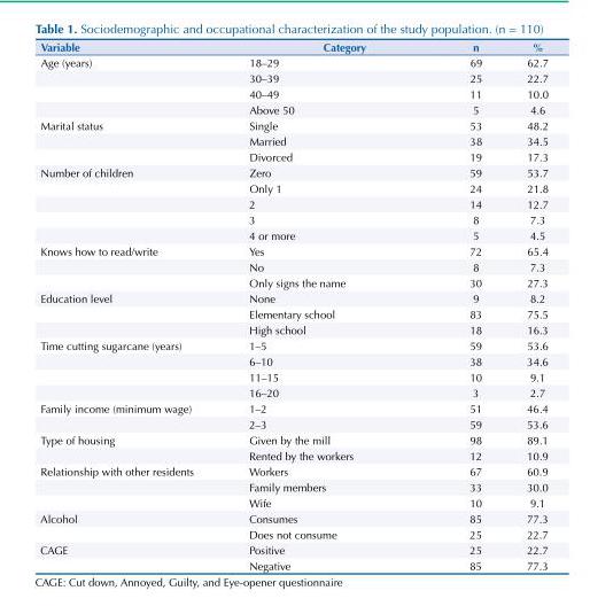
<table><thead><tr><td>Variable</td><td>Category</td><td>n</td><td>%</td></tr></thead><tbody><tr><td rowspan="4">Age (years)</td><td>18–29</td><td>69</td><td>62.7</td></tr><tr><td>30–39</td><td>25</td><td>22.7</td></tr><tr><td>40–49</td><td>11</td><td>10.0</td></tr><tr><td>Above 50</td><td>5</td><td>4.6</td></tr><tr><td rowspan="3">Marital status</td><td>Single</td><td>53</td><td>48.2</td></tr><tr><td>Married</td><td>38</td><td>34.5</td></tr><tr><td>Divorced</td><td>19</td><td>17.3</td></tr><tr><td rowspan="5">Number of children</td><td>Zero</td><td>59</td><td>53.7</td></tr><tr><td>Only 1</td><td>24</td><td>21.8</td></tr><tr><td>2</td><td>14</td><td>12.7</td></tr><tr><td>3</td><td>8</td><td>7.3</td></tr><tr><td>4 or more</td><td>5</td><td>4.5</td></tr><tr><td rowspan="3">Knows how to read/write</td><td>Yes</td><td>72</td><td>65.4</td></tr><tr><td>No</td><td>8</td><td>7.3</td></tr><tr><td>Only signs the name</td><td>30</td><td>27.3</td></tr><tr><td rowspan="3">Education level</td><td>None</td><td>9</td><td>8.2</td></tr><tr><td>Elementary school</td><td>83</td><td>75.5</td></tr><tr><td>High school</td><td>18</td><td>16.3</td></tr><tr><td rowspan="4">Time cutting sugarcane (years)</td><td>1–5</td><td>59</td><td>53.6</td></tr><tr><td>6–10</td><td>38</td><td>34.6</td></tr><tr><td>11–15</td><td>10</td><td>9.1</td></tr><tr><td>16–20</td><td>3</td><td>2.7</td></tr><tr><td rowspan="2">Family income (minimum wage)</td><td>1–2</td><td>51</td><td>46.4</td></tr><tr><td>2–3</td><td>59</td><td>53.6</td></tr><tr><td rowspan="2">Type of housing</td><td>Given by the mill</td><td>98</td><td>89.1</td></tr><tr><td>Rented by the workers</td><td>12</td><td>10.9</td></tr><tr><td rowspan="3">Relationship with other residents</td><td>Workers</td><td>67</td><td>60.9</td></tr><tr><td>Family members</td><td>33</td><td>30.0</td></tr><tr><td>Wife</td><td>10</td><td>9.1</td></tr><tr><td rowspan="2">Alcohol</td><td>Consumes</td><td>85</td><td>77.3</td></tr><tr><td>Does not consume</td><td>25</td><td>22.7</td></tr><tr><td rowspan="2">CAGE</td><td>Positive</td><td>25</td><td>22.7</td></tr><tr><td>Negative</td><td>85</td><td>77.3</td></tr></tbody></table>